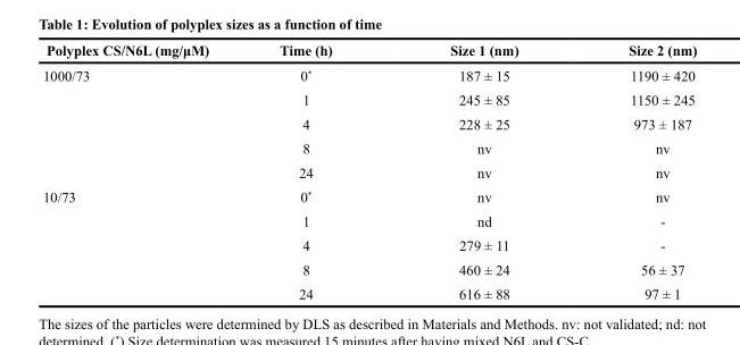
<table><thead><tr><td>Polyplex CS/N6L (mg/μM)</td><td>Time (h)</td><td>Size 1 (nm)</td><td>Size 2 (nm)</td></tr></thead><tbody><tr><td rowspan="5">1000/73</td><td>0*</td><td>187 ± 15</td><td>1190 ± 420</td></tr><tr><td>1</td><td>245 ± 85</td><td>1150 ± 245</td></tr><tr><td>4</td><td>228 ± 25</td><td>973 ± 187</td></tr><tr><td>8</td><td>nv</td><td>nv</td></tr><tr><td>24</td><td>nv</td><td>nv</td></tr><tr><td rowspan="5">10/73</td><td>0*</td><td>nv</td><td>nv</td></tr><tr><td>1</td><td>nd</td><td>-</td></tr><tr><td>4</td><td>279 ± 11</td><td>-</td></tr><tr><td>8</td><td>460 ± 24</td><td>56 ± 37</td></tr><tr><td>24</td><td>616 ± 88</td><td>97 ± 1</td></tr></tbody></table>